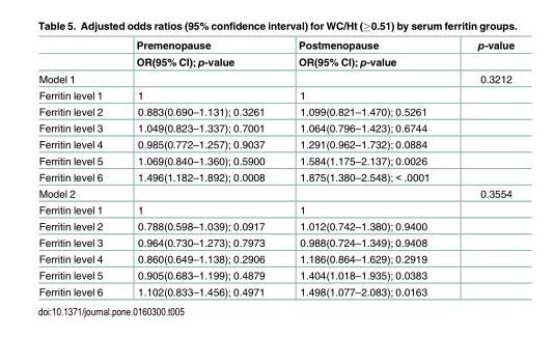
<table><thead><tr><td rowspan="2"></td><td rowspan="2">Premenopause OR(95% CI); p-value</td><td rowspan="2">Postmenopause OR(95% CI); p-value</td><td rowspan="2">p-value</td></tr><tr></tr></thead><tbody><tr><td>Model 1</td><td></td><td></td><td>0.3212</td></tr><tr><td>Ferritin level 1</td><td>1</td><td>1</td><td></td></tr><tr><td>Ferritin level 2</td><td>0.883(0.690–1.131); 0.3261</td><td>1.099(0.821–1.470); 0.5261</td><td></td></tr><tr><td>Ferritin level 3</td><td>1.049(0.823–1.337); 0.7001</td><td>1.064(0.796–1.423); 0.6744</td><td></td></tr><tr><td>Ferritin level 4</td><td>0.985(0.772–1.257); 0.9037</td><td>1.291(0.962–1.732); 0.0884</td><td></td></tr><tr><td>Ferritin level 5</td><td>1.069(0.840–1.360); 0.5900</td><td>1.584(1.175–2.137); 0.0026</td><td></td></tr><tr><td>Ferritin level 6</td><td>1.496(1.182–1.892); 0.0008</td><td>1.875(1.380–2.548); &lt; .0001</td><td></td></tr><tr><td>Model 2</td><td></td><td></td><td>0.3554</td></tr><tr><td>Ferritin level 1</td><td>1</td><td>1</td><td></td></tr><tr><td>Ferritin level 2</td><td>0.788(0.598–1.039); 0.0917</td><td>1.012(0.742–1.380); 0.9400</td><td></td></tr><tr><td>Ferritin level 3</td><td>0.964(0.730–1.273); 0.7973</td><td>0.988(0.724–1.349); 0.9408</td><td></td></tr><tr><td>Ferritin level 4</td><td>0.860(0.649–1.138); 0.2906</td><td>1.186(0.864–1.629); 0.2919</td><td></td></tr><tr><td>Ferritin level 5</td><td>0.905(0.683–1.199); 0.4879</td><td>1.404(1.018–1.935); 0.0383</td><td></td></tr><tr><td>Ferritin level 6</td><td>1.102(0.833–1.456); 0.4971</td><td>1.498(1.077–2.083); 0.0163</td><td></td></tr></tbody></table>